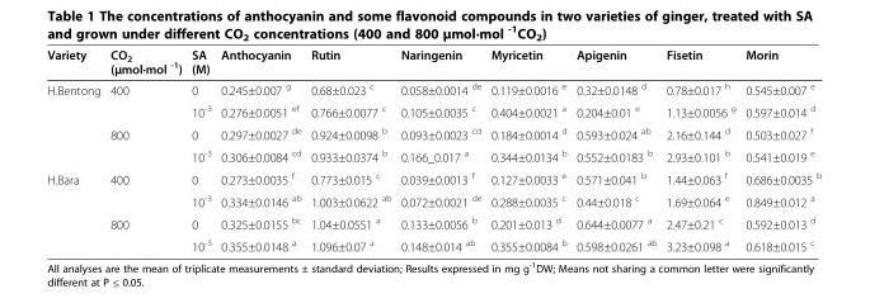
<table><thead><tr><td>Variety</td><td>CO<sub>2</sub> (μmol·mol <sup>-1</sup>)</td><td>SA (M)</td><td>Anthocyanin</td><td>Rutin</td><td>Naringenin</td><td>Myricetin</td><td>Apigenin</td><td>Fisetin</td><td>Morin</td></tr></thead><tbody><tr><td rowspan="4">H.Bentong</td><td>400</td><td>0</td><td>0.245±0.007 <sup>g</sup></td><td>0.68±0.023 <sup>c</sup></td><td>0.058±0.0014 <sup>de</sup></td><td>0.119±0.0016 <sup>e</sup></td><td>0.32±0.0148 <sup>d</sup></td><td>0.78±0.017 <sup>h</sup></td><td>0.545±0.007 <sup>e</sup></td></tr><tr><td></td><td>10<sup>-3</sup></td><td>0.276±0.0051 <sup>ef</sup></td><td>0.766±0.0077 <sup>c</sup></td><td>0.105±0.0035 <sup>c</sup></td><td>0.404±0.0021 <sup>a</sup></td><td>0.204±0.01 <sup>e</sup></td><td>1.13±0.0056 <sup>g</sup></td><td>0.597±0.014 <sup>d</sup></td></tr><tr><td>800</td><td>0</td><td>0.297±0.0027 <sup>de</sup></td><td>0.924±0.0098 <sup>b</sup></td><td>0.093±0.0023 <sup>cd</sup></td><td>0.184±0.0014 <sup>d</sup></td><td>0.593±0.024 <sup>ab</sup></td><td>2.16±0.144 <sup>d</sup></td><td>0.503±0.027 <sup>f</sup></td></tr><tr><td></td><td>10<sup>-3</sup></td><td>0.306±0.0084 <sup>cd</sup></td><td>0.933±0.0374 <sup>b</sup></td><td>0.166_0.017 <sup>a</sup></td><td>0.344±0.0134 <sup>b</sup></td><td>0.552±0.0183 <sup>b</sup></td><td>2.93±0.101 <sup>b</sup></td><td>0.541±0.019 <sup>e</sup></td></tr><tr><td rowspan="4">H.Bara</td><td>400</td><td>0</td><td>0.273±0.0035 <sup>f</sup></td><td>0.773±0.015 <sup>c</sup></td><td>0.039±0.0013 <sup>f</sup></td><td>0.127±0.0033 <sup>e</sup></td><td>0.571±0.041 <sup>b</sup></td><td>1.44±0.063 <sup>f</sup></td><td>0.686±0.0035 <sup>b</sup></td></tr><tr><td></td><td>10<sup>-3</sup></td><td>0.334±0.0146 <sup>ab</sup></td><td>1.003±0.0622 <sup>ab</sup></td><td>0.072±0.0021 <sup>de</sup></td><td>0.288±0.0035 <sup>c</sup></td><td>0.44±0.018 <sup>c</sup></td><td>1.69±0.064 <sup>e</sup></td><td>0.849±0.012 <sup>a</sup></td></tr><tr><td>800</td><td>0</td><td>0.325±0.0155 <sup>bc</sup></td><td>1.04±0.0551 <sup>a</sup></td><td>0.133±0.0056 <sup>b</sup></td><td>0.201±0.013 <sup>d</sup></td><td>0.644±0.0077 <sup>a</sup></td><td>2.47±0.21 <sup>c</sup></td><td>0.592±0.013 <sup>d</sup></td></tr><tr><td></td><td>10<sup>-3</sup></td><td>0.355±0.0148 <sup>a</sup></td><td>1.096±0.07 <sup>a</sup></td><td>0.148±0.014 <sup>ab</sup></td><td>0.355±0.0084 <sup>b</sup></td><td>0.598±0.0261 <sup>ab</sup></td><td>3.23±0.098 <sup>a</sup></td><td>0.618±0.015 <sup>c</sup></td></tr></tbody></table>